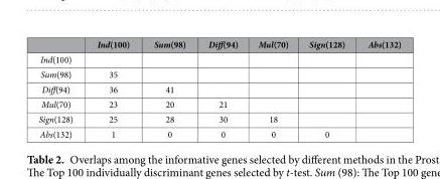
<table><thead><tr><td></td><td>Ind(100)</td><td>Sum(98)</td><td>Diff(94)</td><td>Mul(70)</td><td>Sign(128)</td><td>Abs(132)</td></tr></thead><tbody><tr><td colspan="7">Ind(100)</td></tr><tr><td>Sum(98)</td><td>35</td><td></td><td></td><td></td><td></td><td></td></tr><tr><td>Diff(94)</td><td>36</td><td>41</td><td></td><td></td><td></td><td></td></tr><tr><td>Mul(70)</td><td>23</td><td>20</td><td>21</td><td></td><td></td><td></td></tr><tr><td>Sign(128)</td><td>25</td><td>28</td><td>30</td><td>18</td><td></td><td></td></tr><tr><td>Abs(132)</td><td>1</td><td>0</td><td>0</td><td>0</td><td>0</td><td></td></tr></tbody></table>